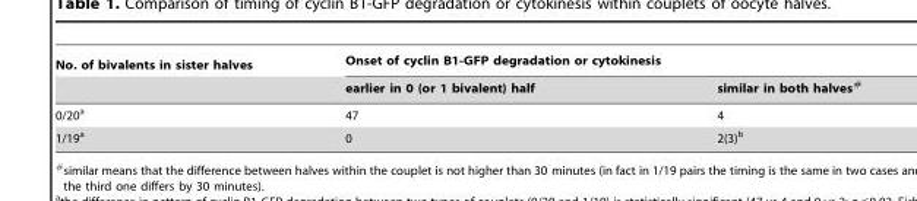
<table><thead><tr><td rowspan="2">No. of bivalents in sister halves</td><td colspan="2">Onset of cyclin B1-GFP degradation or cytokinesis</td></tr><tr><td>earlier in 0 (or 1 bivalent) half</td><td>similar in both halves#</td></tr></thead><tbody><tr><td>0/20<sup>a</sup></td><td>47</td><td>4</td></tr><tr><td>1/19<sup>a</sup></td><td>0</td><td>2(3)<sup>b</sup></td></tr></tbody></table>